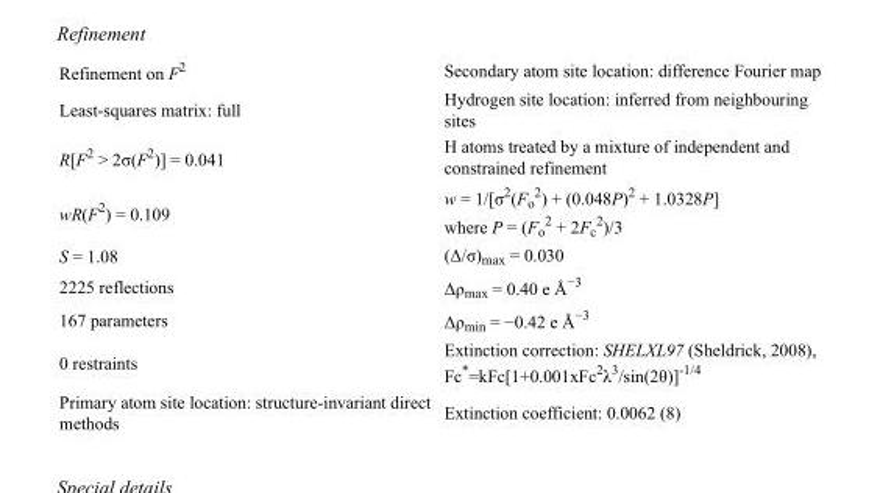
<table><tbody><tr><td>Refinement on F<sup>2</sup></td><td>Secondary atom site location: difference Fourier map</td></tr><tr><td>Least-squares matrix: full</td><td>Hydrogen site location: inferred from neighbouring sites</td></tr><tr><td>R[F<sup>2</sup> &gt; 2σ(F<sup>2</sup>)] = 0.041</td><td>H atoms treated by a mixture of independent and constrained refinement</td></tr><tr><td>wR(F<sup>2</sup>) = 0.109</td><td>w = 1/[σ<sup>2</sup>(F<sub>o</sub> <sup>2</sup>) + (0.048P)<sup>2</sup> + 1.0328P] where P = (F<sub>o</sub> <sup>2</sup> + 2F<sub>c</sub> <sup>2</sup>)/3</td></tr><tr><td>S = 1.08</td><td>(Δ/σ)<sub>max</sub> = 0.030</td></tr><tr><td>2225 reflections</td><td>Δρ<sub>max</sub> = 0.40 e Å<sup>−3</sup></td></tr><tr><td>167 parameters</td><td>Δρ<sub>min</sub> = −0.42 e Å<sup>−3</sup></td></tr><tr><td>0 restraints</td><td>Extinction correction: SHELXL97 (Sheldrick, 2008), Fc*=kFc[1+0.001xFc<sup>2</sup>λ<sup>3</sup>/sin(2θ)]<sup>-1/4</sup></td></tr><tr><td>Primary atom site location: structure-invariant direct methods</td><td>Extinction coefficient: 0.0062 (8)</td></tr></tbody></table>